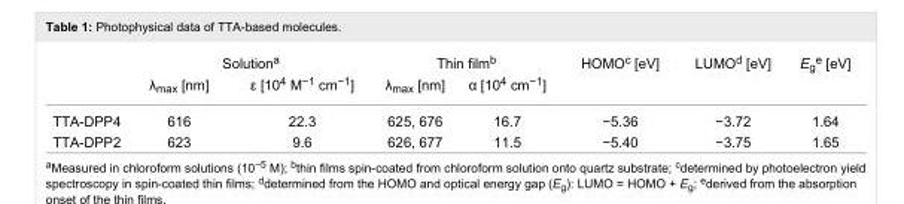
<table><thead><tr><td rowspan="2"></td><td colspan="2">Solution<sup>a</sup></td><td colspan="2">Thin film<sup>b</sup></td><td rowspan="2">HOMO<sup>c</sup> [eV]</td><td rowspan="2">LUMO<sup>d</sup> [eV]</td><td rowspan="2">E<sub>g</sub><sup>e</sup> [eV]</td></tr><tr><td>λ<sub>max</sub> [nm]</td><td>ε [10<sup>4</sup> M<sup>−1</sup> cm<sup>−1</sup>]</td><td>λ<sub>max</sub> [nm]</td><td>α [10<sup>4</sup> cm<sup>−1</sup>]</td></tr></thead><tbody><tr><td>TTA-DPP4</td><td>616</td><td>22.3</td><td>625, 676</td><td>16.7</td><td>−5.36</td><td>−3.72</td><td>1.64</td></tr><tr><td>TTA-DPP2</td><td>623</td><td>9.6</td><td>626, 677</td><td>11.5</td><td>−5.40</td><td>−3.75</td><td>1.65</td></tr></tbody></table>